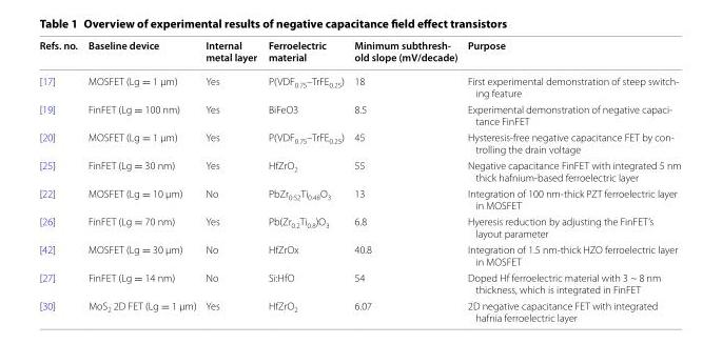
<table><thead><tr><td>Refs. no.</td><td>Baseline device</td><td>Internal metal layer</td><td>Ferroelectric material</td><td>Minimum subthresh‑ old slope (mV/decade)</td><td>Purpose</td></tr></thead><tbody><tr><td>[17]</td><td>MOSFET (Lg = 1 μm)</td><td>Yes</td><td>P(VDF<sub>0.75</sub>–TrFE<sub>0.25</sub>)</td><td>18</td><td>First experimental demonstration of steep switch- ing feature</td></tr><tr><td>[19]</td><td>FinFET (Lg = 100 nm)</td><td>Yes</td><td>BiFeO3</td><td>8.5</td><td>Experimental demonstration of negative capaci- tance FinFET</td></tr><tr><td>[20]</td><td>MOSFET (Lg = 1 μm)</td><td>Yes</td><td>P(VDF<sub>0.75</sub>–TrFE<sub>0.25</sub>)</td><td>45</td><td>Hysteresis-free negative capacitance FET by con- trolling the drain voltage</td></tr><tr><td>[25]</td><td>FinFET (Lg = 30 nm)</td><td>Yes</td><td>HfZrO<sub>2</sub></td><td>55</td><td>Negative capacitance FinFET with integrated 5 nm thick hafnium-based ferroelectric layer</td></tr><tr><td>[22]</td><td>MOSFET (Lg = 10 μm)</td><td>No</td><td>PbZr<sub>0:52</sub>Ti<sub>0:48</sub>O<sub>3</sub></td><td>13</td><td>Integration of 100 nm-thick PZT ferroelectric layer in MOSFET</td></tr><tr><td>[26]</td><td>FinFET (Lg = 70 nm)</td><td>Yes</td><td>Pb(Zr<sub>0.2</sub>Ti<sub>0.8</sub>)O<sub>3</sub></td><td>6.8</td><td>Hyeresis reduction by adjusting the FinFET’s layout parameter</td></tr><tr><td>[42]</td><td>MOSFET (Lg = 30 μm)</td><td>No</td><td>HfZrOx</td><td>40.8</td><td>Integration of 1.5 nm-thick HZO ferroelectric layer in MOSFET</td></tr><tr><td>[27]</td><td>FinFET (Lg = 14 nm)</td><td>No</td><td>Si:HfO</td><td>54</td><td>Doped Hf ferroelectric material with 3 ~ 8 nm thickness, which is integrated in FinFET</td></tr><tr><td>[30]</td><td>MoS<sub>2</sub> 2D FET (Lg = 1 μm)</td><td>Yes</td><td>HfZrO<sub>2</sub></td><td>6.07</td><td>2D negative capacitance FET with integrated hafnia ferroelectric layer</td></tr></tbody></table>